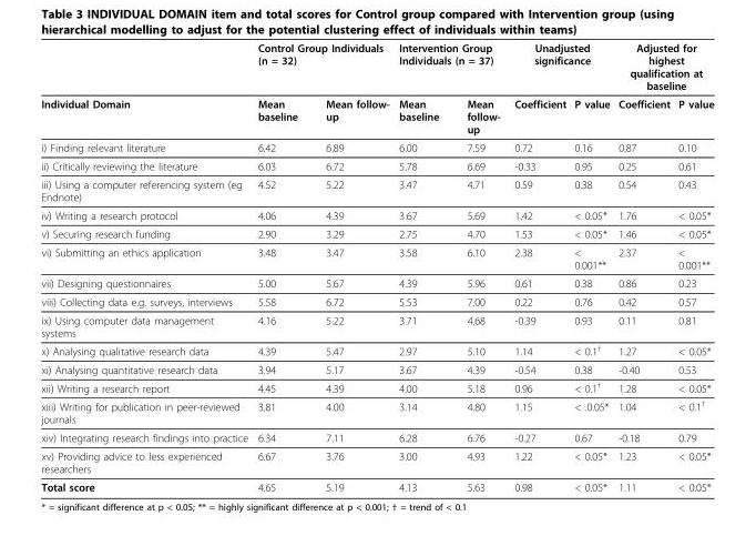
<table><thead><tr><td rowspan="2">Individual Domain</td><td colspan="2">Control Group Individuals (n = 32)</td><td colspan="2">Intervention Group Individuals (n = 37)</td><td colspan="2">Unadjusted significance</td><td colspan="2">Adjusted for highest qualification at baseline</td></tr><tr><td>Mean baseline</td><td>Mean follow- up</td><td>Mean baseline</td><td>Mean follow- up</td><td>Coefficient</td><td>P value</td><td>Coefficient</td><td>P value</td></tr></thead><tbody><tr><td>i) Finding relevant literature</td><td>6.42</td><td>6.89</td><td>6.00</td><td>7.59</td><td>0.72</td><td>0.16</td><td>0.87</td><td>0.10</td></tr><tr><td>ii) Critically reviewing the literature</td><td>6.03</td><td>6.72</td><td>5.78</td><td>6.69</td><td>-0.33</td><td>0.95</td><td>0.25</td><td>0.61</td></tr><tr><td>iii) Using a computer referencing system (eg Endnote)</td><td>4.52</td><td>5.22</td><td>3.47</td><td>4.71</td><td>0.59</td><td>0.38</td><td>0.54</td><td>0.43</td></tr><tr><td>iv) Writing a research protocol</td><td>4.06</td><td>4.39</td><td>3.67</td><td>5.69</td><td>1.42</td><td>&lt; 0.05*</td><td>1.76</td><td>&lt; 0.05*</td></tr><tr><td>v) Securing research funding</td><td>2.90</td><td>3.29</td><td>2.75</td><td>4.70</td><td>1.53</td><td>&lt; 0.05*</td><td>1.46</td><td>&lt; 0.05*</td></tr><tr><td>vi) Submitting an ethics application</td><td>3.48</td><td>3.47</td><td>3.58</td><td>6.10</td><td>2.38</td><td>&lt; 0.001**</td><td>2.37</td><td>&lt; 0.001**</td></tr><tr><td>vii) Designing questionnaires</td><td>5.00</td><td>5.67</td><td>4.39</td><td>5.96</td><td>0.61</td><td>0.38</td><td>0.86</td><td>0.23</td></tr><tr><td>viii) Collecting data e.g. surveys, interviews</td><td>5.58</td><td>6.72</td><td>5.53</td><td>7.00</td><td>0.22</td><td>0.76</td><td>0.42</td><td>0.57</td></tr><tr><td>ix) Using computer data management systems</td><td>4.16</td><td>5.22</td><td>3.71</td><td>4.68</td><td>-0.39</td><td>0.93</td><td>0.11</td><td>0.81</td></tr><tr><td>x) Analysing qualitative research data</td><td>4.39</td><td>5.47</td><td>2.97</td><td>5.10</td><td>1.14</td><td>&lt; 0.1<sup>†</sup></td><td>1.27</td><td>&lt; 0.05*</td></tr><tr><td>xi) Analysing quantitative research data</td><td>3.94</td><td>5.17</td><td>3.67</td><td>4.39</td><td>-0.54</td><td>0.38</td><td>-0.40</td><td>0.53</td></tr><tr><td>xii) Writing a research report</td><td>4.45</td><td>4.39</td><td>4.00</td><td>5.18</td><td>0.96</td><td>&lt; 0.1<sup>†</sup></td><td>1.28</td><td>&lt; 0.05*</td></tr><tr><td>xiii) Writing for publication in peer-reviewed journals</td><td>3.81</td><td>4.00</td><td>3.14</td><td>4.80</td><td>1.15</td><td>&lt; .0.05*</td><td>1.04</td><td>&lt; 0.1<sup>†</sup></td></tr><tr><td>xiv) Integrating research findings into practice</td><td>6.34</td><td>7.11</td><td>6.28</td><td>6.76</td><td>-0.27</td><td>0.67</td><td>-0.18</td><td>0.79</td></tr><tr><td>xv) Providing advice to less experienced researchers</td><td>6.67</td><td>3.76</td><td>3.00</td><td>4.93</td><td>1.22</td><td>&lt; 0.05*</td><td>1.23</td><td>&lt; 0.05*</td></tr><tr><td>Total score</td><td>4.65</td><td>5.19</td><td>4.13</td><td>5.63</td><td>0.98</td><td>&lt; 0.05*</td><td>1.11</td><td>&lt; 0.05*</td></tr></tbody></table>